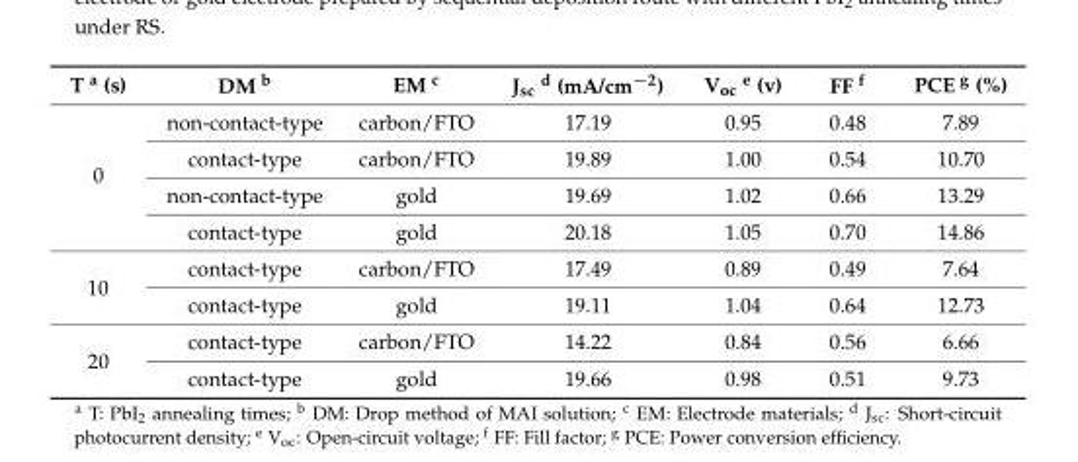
<table><thead><tr><td>T <sup>a</sup> (s)</td><td>DM <sup>b</sup></td><td>EM <sup>c</sup></td><td>J<sub>sc</sub> <sup>d</sup> (mA/cm<sup>−2</sup>)</td><td>V<sub>oc</sub> <sup>e</sup> (v)</td><td>FF <sup>f</sup></td><td>PCE <sup>g</sup> (%)</td></tr></thead><tbody><tr><td rowspan="4">0</td><td>non-contact-type</td><td>carbon/FTO</td><td>17.19</td><td>0.95</td><td>0.48</td><td>7.89</td></tr><tr><td>contact-type</td><td>carbon/FTO</td><td>19.89</td><td>1.00</td><td>0.54</td><td>10.70</td></tr><tr><td>non-contact-type</td><td>gold</td><td>19.69</td><td>1.02</td><td>0.66</td><td>13.29</td></tr><tr><td>contact-type</td><td>gold</td><td>20.18</td><td>1.05</td><td>0.70</td><td>14.86</td></tr><tr><td rowspan="2">10</td><td>contact-type</td><td>carbon/FTO</td><td>17.49</td><td>0.89</td><td>0.49</td><td>7.64</td></tr><tr><td>contact-type</td><td>gold</td><td>19.11</td><td>1.04</td><td>0.64</td><td>12.73</td></tr><tr><td rowspan="2">20</td><td>contact-type</td><td>carbon/FTO</td><td>14.22</td><td>0.84</td><td>0.56</td><td>6.66</td></tr><tr><td>contact-type</td><td>gold</td><td>19.66</td><td>0.98</td><td>0.51</td><td>9.73</td></tr></tbody></table>